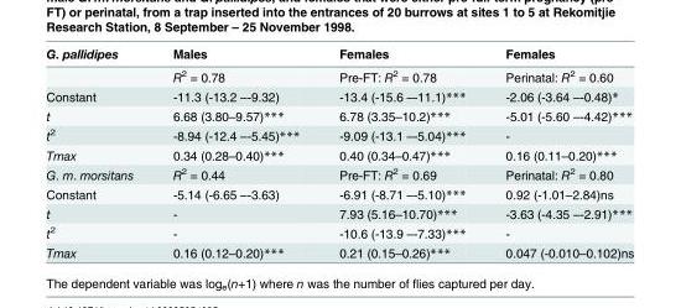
<table><thead><tr><td>G. pallidipes</td><td>Males</td><td>Females</td><td>Females</td></tr></thead><tbody><tr><td></td><td>R<sup>2</sup> = 0.78</td><td>Pre-FT: R<sup>2</sup> = 0.78</td><td>Perinatal: R<sup>2</sup> = 0.60</td></tr><tr><td>Constant</td><td>-11.3 (-13.2 –-9.32)</td><td>-13.4 (-15.6 –-11.1)***</td><td>-2.06 (-3.64 –-0.48)*</td></tr><tr><td>t</td><td>6.68 (3.80–9.57)***</td><td>6.78 (3.35–10.2)***</td><td>-5.01 (-5.60 –-4.42)***</td></tr><tr><td>t<sup>2</sup></td><td>-8.94 (-12.4 –-5.45)***</td><td>-9.09 (-13.1 –-5.04)***</td><td>-</td></tr><tr><td>Tmax</td><td>0.34 (0.28–0.40)***</td><td>0.40 (0.34–0.47)***</td><td>0.16 (0.11–0.20)***</td></tr><tr><td>G. m. morsitans</td><td>R<sup>2</sup> = 0.44</td><td>Pre-FT: R<sup>2</sup> = 0.69</td><td>Perinatal: R<sup>2</sup> = 0.80</td></tr><tr><td>Constant</td><td>-5.14 (-6.65 –-3.63)</td><td>-6.91 (-8.71 –-5.10)***</td><td>0.92 (-1.01–2.84)ns</td></tr><tr><td>t</td><td>-</td><td>7.93 (5.16–10.70)***</td><td>-3.63 (-4.35 –-2.91)***</td></tr><tr><td>t<sup>2</sup></td><td>-</td><td>-10.6 (-13.9 –-7.33)***</td><td>-</td></tr><tr><td>Tmax</td><td>0.16 (0.12–0.20)***</td><td>0.21 (0.15–0.26)***</td><td>0.047 (-0.010–0.102)ns</td></tr></tbody></table>